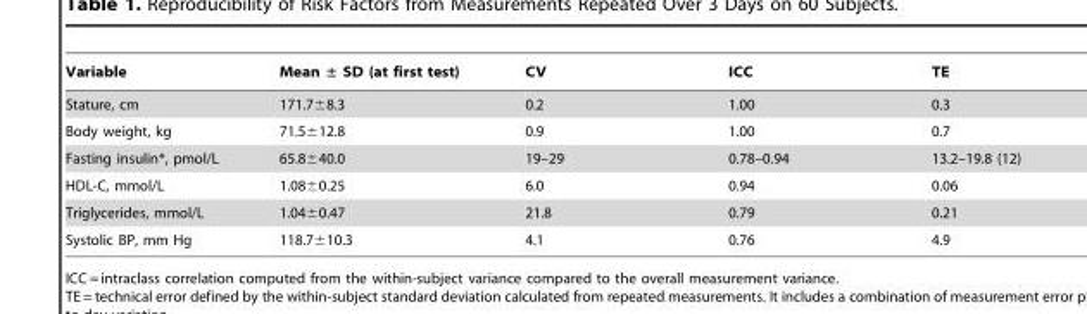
<table><thead><tr><td>Variable</td><td>Mean ± SD (at first test)</td><td>CV</td><td>ICC</td><td>TE</td></tr></thead><tbody><tr><td>Stature, cm</td><td>171.7±8.3</td><td>0.2</td><td>1.00</td><td>0.3</td></tr><tr><td>Body weight, kg</td><td>71.5±12.8</td><td>0.9</td><td>1.00</td><td>0.7</td></tr><tr><td>Fasting insulin*, pmol/L</td><td>65.8±40.0</td><td>19–29</td><td>0.78–0.94</td><td>13.2–19.8 (12)</td></tr><tr><td>HDL-C, mmol/L</td><td>1.08±0.25</td><td>6.0</td><td>0.94</td><td>0.06</td></tr><tr><td>Triglycerides, mmol/L</td><td>1.04±0.47</td><td>21.8</td><td>0.79</td><td>0.21</td></tr><tr><td>Systolic BP, mm Hg</td><td>118.7±10.3</td><td>4.1</td><td>0.76</td><td>4.9</td></tr></tbody></table>